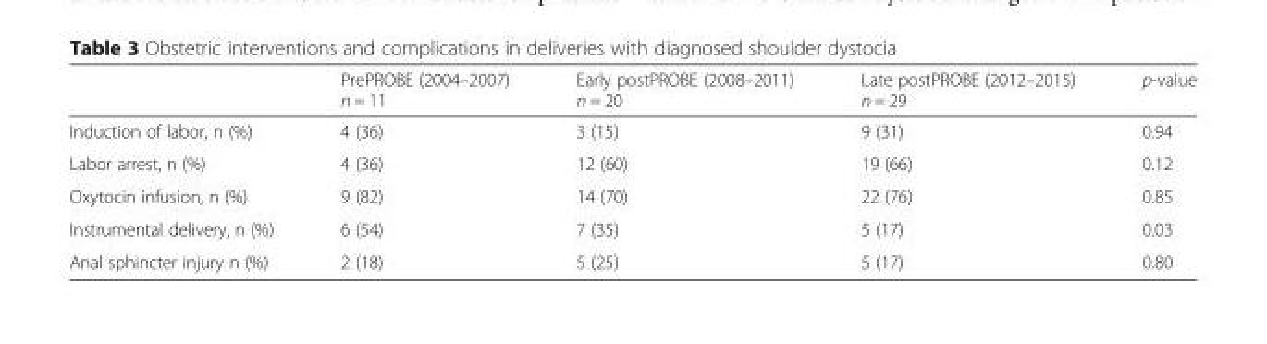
<table><thead><tr><td></td><td>PrePROBE (2004–2007) n = 11</td><td>Early postPROBE (2008–2011) n = 20</td><td>Late postPROBE (2012–2015) n = 29</td><td>p-value</td></tr></thead><tbody><tr><td>Induction of labor, n (%)</td><td>4 (36)</td><td>3 (15)</td><td>9 (31)</td><td>0.94</td></tr><tr><td>Labor arrest, n (%)</td><td>4 (36)</td><td>12 (60)</td><td>19 (66)</td><td>0.12</td></tr><tr><td>Oxytocin infusion, n (%)</td><td>9 (82)</td><td>14 (70)</td><td>22 (76)</td><td>0.85</td></tr><tr><td>Instrumental delivery, n (%)</td><td>6 (54)</td><td>7 (35)</td><td>5 (17)</td><td>0.03</td></tr><tr><td>Anal sphincter injury n (%)</td><td>2 (18)</td><td>5 (25)</td><td>5 (17)</td><td>0.80</td></tr></tbody></table>